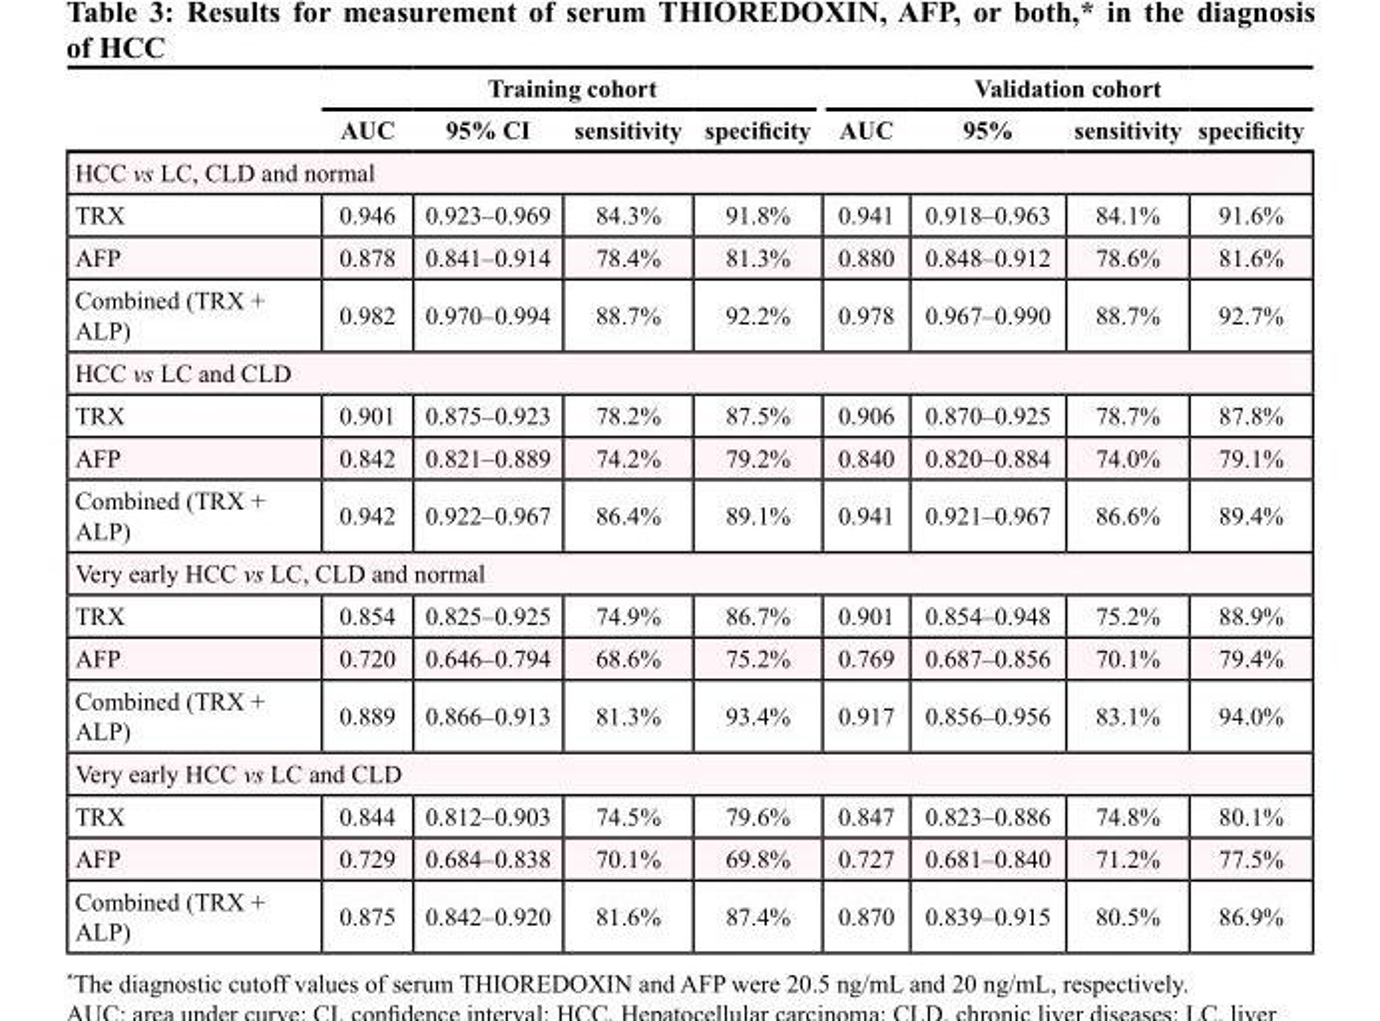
<table><thead><tr><td rowspan="2"></td><td colspan="4">Training cohort</td><td colspan="4">Validation cohort</td></tr><tr><td>AUC</td><td>95% CI</td><td>sensitivity</td><td>specificity</td><td>AUC</td><td>95%</td><td>sensitivity</td><td>specificity</td></tr></thead><tbody><tr><td colspan="9">HCC vs LC, CLD and normal</td></tr><tr><td>TRX</td><td>0.946</td><td>0.923–0.969</td><td>84.3%</td><td>91.8%</td><td>0.941</td><td>0.918–0.963</td><td>84.1%</td><td>91.6%</td></tr><tr><td>AFP</td><td>0.878</td><td>0.841–0.914</td><td>78.4%</td><td>81.3%</td><td>0.880</td><td>0.848–0.912</td><td>78.6%</td><td>81.6%</td></tr><tr><td>Combined (TRX + ALP)</td><td>0.982</td><td>0.970–0.994</td><td>88.7%</td><td>92.2%</td><td>0.978</td><td>0.967–0.990</td><td>88.7%</td><td>92.7%</td></tr><tr><td colspan="9">HCC vs LC and CLD</td></tr><tr><td>TRX</td><td>0.901</td><td>0.875–0.923</td><td>78.2%</td><td>87.5%</td><td>0.906</td><td>0.870–0.925</td><td>78.7%</td><td>87.8%</td></tr><tr><td>AFP</td><td>0.842</td><td>0.821–0.889</td><td>74.2%</td><td>79.2%</td><td>0.840</td><td>0.820–0.884</td><td>74.0%</td><td>79.1%</td></tr><tr><td>Combined (TRX + ALP)</td><td>0.942</td><td>0.922–0.967</td><td>86.4%</td><td>89.1%</td><td>0.941</td><td>0.921–0.967</td><td>86.6%</td><td>89.4%</td></tr><tr><td colspan="9">Very early HCC vs LC, CLD and normal</td></tr><tr><td>TRX</td><td>0.854</td><td>0.825–0.925</td><td>74.9%</td><td>86.7%</td><td>0.901</td><td>0.854–0.948</td><td>75.2%</td><td>88.9%</td></tr><tr><td>AFP</td><td>0.720</td><td>0.646–0.794</td><td>68.6%</td><td>75.2%</td><td>0.769</td><td>0.687–0.856</td><td>70.1%</td><td>79.4%</td></tr><tr><td>Combined (TRX + ALP)</td><td>0.889</td><td>0.866–0.913</td><td>81.3%</td><td>93.4%</td><td>0.917</td><td>0.856–0.956</td><td>83.1%</td><td>94.0%</td></tr><tr><td colspan="9">Very early HCC vs LC and CLD</td></tr><tr><td>TRX</td><td>0.844</td><td>0.812–0.903</td><td>74.5%</td><td>79.6%</td><td>0.847</td><td>0.823–0.886</td><td>74.8%</td><td>80.1%</td></tr><tr><td>AFP</td><td>0.729</td><td>0.684–0.838</td><td>70.1%</td><td>69.8%</td><td>0.727</td><td>0.681–0.840</td><td>71.2%</td><td>77.5%</td></tr><tr><td>Combined (TRX + ALP)</td><td>0.875</td><td>0.842–0.920</td><td>81.6%</td><td>87.4%</td><td>0.870</td><td>0.839–0.915</td><td>80.5%</td><td>86.9%</td></tr></tbody></table>